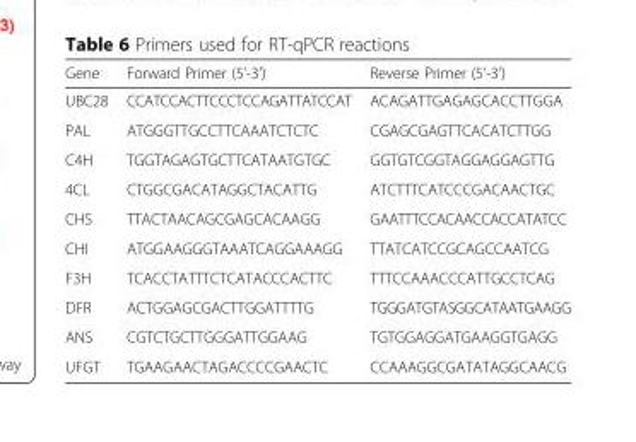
<table><thead><tr><td>Gene</td><td>Forward Primer (5’-3’)</td><td>Reverse Primer (5’-3’)</td></tr></thead><tbody><tr><td>UBC28</td><td>CCATCCACTTCCCTCCAGATTATCCAT</td><td>ACAGATTGAGAGCACCTTGGA</td></tr><tr><td>PAL</td><td>ATGGGTTGCCTTCAAATCTCTC</td><td>CGAGCGAGTTCACATCTTGG</td></tr><tr><td>C4H</td><td>TGGTAGAGTGCTTCATAATGTGC</td><td>GGTGTCGGTAGGAGGAGTTG</td></tr><tr><td>4CL</td><td>CTGGCGACATAGGCTACATTG</td><td>ATCTTTCATCCCGACAACTGC</td></tr><tr><td>CHS</td><td>TTACTAACAGCGAGCACAAGG</td><td>GAATTTCCACAACCACCATATCC</td></tr><tr><td>CHI</td><td>ATGGAAGGGTAAATCAGGAAAGG</td><td>TTATCATCCGCAGCCAATCG</td></tr><tr><td>F3H</td><td>TCACCTATTTCTCATACCCACTTC</td><td>TTTCCAAACCCATTGCCTCAG</td></tr><tr><td>DFR</td><td>ACTGGAGCGACTTGGATTTTG</td><td>TGGGATGTASGGCATAATGAAGG</td></tr><tr><td>ANS</td><td>CGTCTGCTTGGGATTGGAAG</td><td>TGTGGAGGATGAAGGTGAGG</td></tr><tr><td>UFGT</td><td>TGAAGAACTAGACCCCGAACTC</td><td>CCAAAGGCGATATAGGCAACG</td></tr></tbody></table>